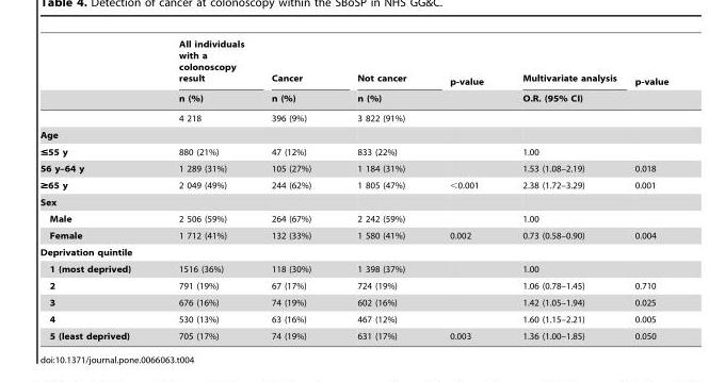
<table><thead><tr><td rowspan="2"></td><td rowspan="2">All individuals with a colonoscopy result n (%)</td><td rowspan="2">Cancer n (%)</td><td rowspan="2">Not cancer n (%)</td><td rowspan="2">p-value</td><td rowspan="2">Multivariate analysis O.R. (95% CI)</td><td rowspan="2">p-value</td></tr><tr></tr></thead><tbody><tr><td></td><td>4 218</td><td>396 (9%)</td><td>3 822 (91%)</td><td></td><td></td><td></td></tr><tr><td colspan="7">Age</td></tr><tr><td>≤55 y</td><td>880 (21%)</td><td>47 (12%)</td><td>833 (22%)</td><td></td><td>1.00</td><td></td></tr><tr><td>56 y–64 y</td><td>1 289 (31%)</td><td>105 (27%)</td><td>1 184 (31%)</td><td></td><td>1.53 (1.08–2.19)</td><td>0.018</td></tr><tr><td>≥65 y</td><td>2 049 (49%)</td><td>244 (62%)</td><td>1 805 (47%)</td><td>&lt;0.001</td><td>2.38 (1.72–3.29)</td><td>0.001</td></tr><tr><td colspan="7">Sex</td></tr><tr><td>Male</td><td>2 506 (59%)</td><td>264 (67%)</td><td>2 242 (59%)</td><td></td><td>1.00</td><td></td></tr><tr><td>Female</td><td>1 712 (41%)</td><td>132 (33%)</td><td>1 580 (41%)</td><td>0.002</td><td>0.73 (0.58–0.90)</td><td>0.004</td></tr><tr><td colspan="7">Deprivation quintile</td></tr><tr><td>1 (most deprived)</td><td>1516 (36%)</td><td>118 (30%)</td><td>1 398 (37%)</td><td></td><td>1.00</td><td></td></tr><tr><td>2</td><td>791 (19%)</td><td>67 (17%)</td><td>724 (19%)</td><td></td><td>1.06 (0.78–1.45)</td><td>0.710</td></tr><tr><td>3</td><td>676 (16%)</td><td>74 (19%)</td><td>602 (16%)</td><td></td><td>1.42 (1.05–1.94)</td><td>0.025</td></tr><tr><td>4</td><td>530 (13%)</td><td>63 (16%)</td><td>467 (12%)</td><td></td><td>1.60 (1.15–2.21)</td><td>0.005</td></tr><tr><td>5 (least deprived)</td><td>705 (17%)</td><td>74 (19%)</td><td>631 (17%)</td><td>0.003</td><td>1.36 (1.00–1.85)</td><td>0.050</td></tr></tbody></table>